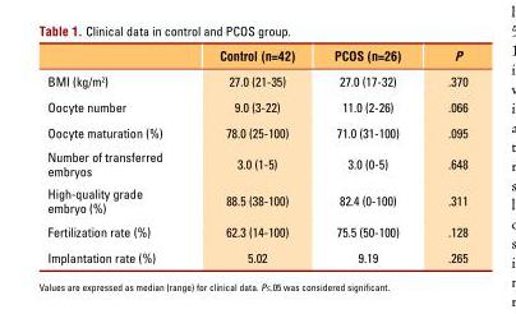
<table><thead><tr><td></td><td>Control (n=42)</td><td>PCOS (n=26)</td><td>P</td></tr></thead><tbody><tr><td>BMI (kg/m<sup>2</sup>)</td><td>27.0 (21-35)</td><td>27.0 (17-32)</td><td>.370</td></tr><tr><td>Oocyte number</td><td>9.0 (3-22)</td><td>11.0 (2-26)</td><td>.066</td></tr><tr><td>Oocyte maturation (%)</td><td>78.0 (25-100)</td><td>71.0 (31-100)</td><td>.095</td></tr><tr><td>Number of transferred embryos</td><td>3.0 (1-5)</td><td>3.0 (0-5)</td><td>.648</td></tr><tr><td>High-quality grade embryo (%)</td><td>88.5 (38-100)</td><td>82.4 (0-100)</td><td>.311</td></tr><tr><td>Fertilization rate (%)</td><td>62.3 (14-100)</td><td>75.5 (50-100)</td><td>.128</td></tr><tr><td>Implantation rate (%)</td><td>5.02</td><td>9.19</td><td>.265</td></tr></tbody></table>